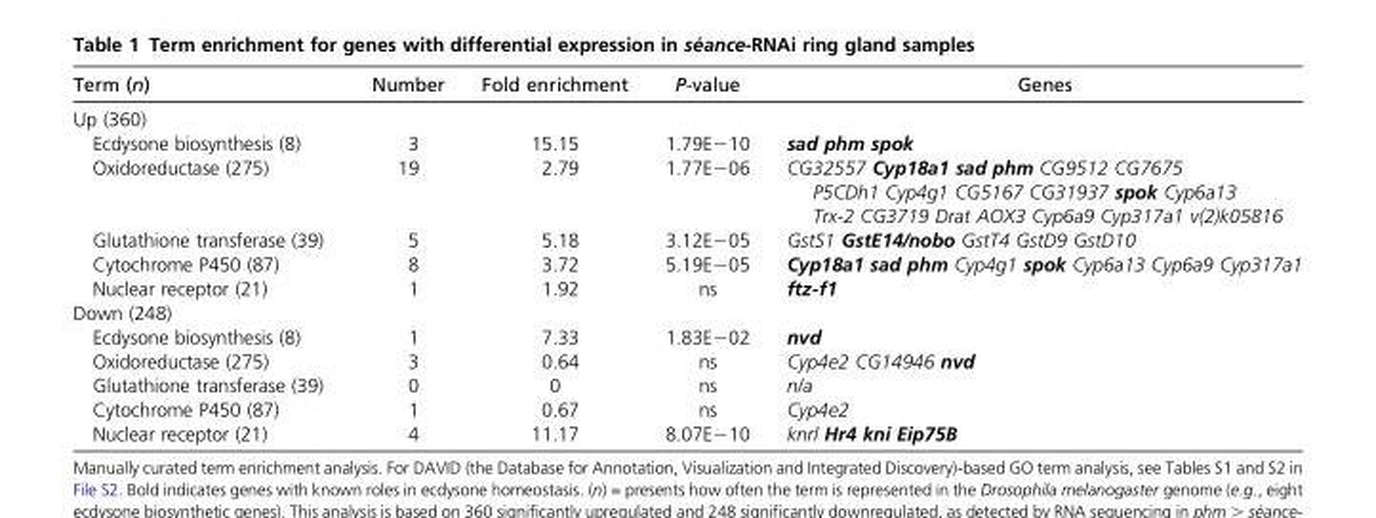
<table><thead><tr><td>Term (n)</td><td>Number</td><td>Fold enrichment</td><td>P-value</td><td>Genes</td></tr></thead><tbody><tr><td colspan="5">Up (360)</td></tr><tr><td>Ecdysone biosynthesis (8)</td><td>3</td><td>15.15</td><td>1.79E−10</td><td>sad phm spok</td></tr><tr><td>Oxidoreductase (275)</td><td>19</td><td>2.79</td><td>1.77E−06</td><td>CG32557 Cyp18a1 sad phm CG9512 CG7675 P5CDh1 Cyp4g1 CG5167 CG31937 spok Cyp6a13 Trx-2 CG3719 Drat AOX3 Cyp6a9 Cyp317a1 v(2)k05816</td></tr><tr><td>Glutathione transferase (39)</td><td>5</td><td>5.18</td><td>3.12E−05</td><td>GstS1 GstE14/nobo GstT4 GstD9 GstD10</td></tr><tr><td>Cytochrome P450 (87)</td><td>8</td><td>3.72</td><td>5.19E−05</td><td>Cyp18a1 sad phm Cyp4g1 spok Cyp6a13 Cyp6a9 Cyp317a1</td></tr><tr><td>Nuclear receptor (21)</td><td>1</td><td>1.92</td><td>ns</td><td>ftz-f1</td></tr><tr><td colspan="5">Down (248)</td></tr><tr><td>Ecdysone biosynthesis (8)</td><td>1</td><td>7.33</td><td>1.83E−02</td><td>nvd</td></tr><tr><td>Oxidoreductase (275)</td><td>3</td><td>0.64</td><td>ns</td><td>Cyp4e2 CG14946 nvd</td></tr><tr><td>Glutathione transferase (39)</td><td>0</td><td>0</td><td>ns</td><td>n/a</td></tr><tr><td>Cytochrome P450 (87)</td><td>1</td><td>0.67</td><td>ns</td><td>Cyp4e2</td></tr><tr><td>Nuclear receptor (21)</td><td>4</td><td>11.17</td><td>8.07E−10</td><td>knrl Hr4 kni Eip75B</td></tr></tbody></table>